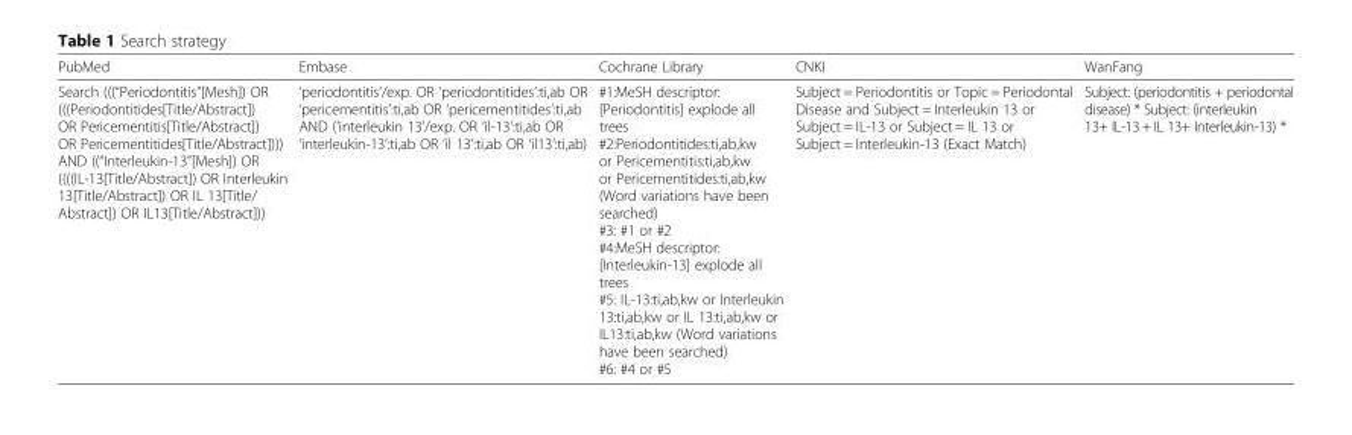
<table><thead><tr><td>PubMed</td><td>Embase</td><td>Cochrane Library</td><td>CNKI</td><td>WanFang</td></tr></thead><tbody><tr><td>Search (((“Periodontitis”[Mesh]) OR (((Periodontitides[Title/Abstract]) OR Pericementitis[Title/Abstract]) OR Pericementitides[Title/Abstract]))) AND ((“Interleukin-13”[Mesh]) OR ((((IL-13[Title/Abstract]) OR Interleukin 13[Title/Abstract]) OR IL 13[Title/ Abstract]) OR IL13[Title/Abstract]))</td><td>‘periodontitis’/exp. OR ‘periodontitides’:ti,ab OR ‘pericementitis’:ti,ab OR ‘pericementitides’:ti,ab AND (‘interleukin 13’/exp. OR ‘il-13’:ti,ab OR ‘interleukin-13’:ti,ab OR ‘il 13’:ti,ab OR ‘il13’:ti,ab)</td><td>#1:MeSH descriptor: [Periodontitis] explode all trees #2:Periodontitides:ti,ab,kw or Pericementitis:ti,ab,kw or Pericementitides:ti,ab,kw (Word variations have been searched) #3: #1 or #2 #4:MeSH descriptor: [Interleukin-13] explode all trees #5: IL-13:ti,ab,kw or Interleukin 13:ti,ab,kw or IL 13:ti,ab,kw or IL13:ti,ab,kw (Word variations have been searched) #6: #4 or #5</td><td>Subject = Periodontitis or Topic = Periodontal Disease and Subject = Interleukin 13 or Subject = IL-13 or Subject = IL 13 or Subject = Interleukin-13 (Exact Match)</td><td>Subject: (periodontitis + periodontal disease) * Subject: (interleukin 13+ IL-13 + IL 13+ Interleukin-13) *</td></tr></tbody></table>